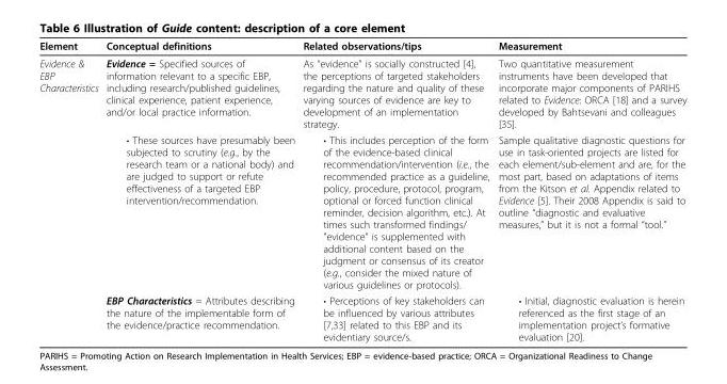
<table><thead><tr><td>Element</td><td>Conceptual definitions</td><td>Related observations/tips</td><td>Measurement</td></tr></thead><tbody><tr><td rowspan="3">Evidence &amp; EBP Characteristics</td><td>Evidence = Specified sources of information relevant to a specific EBP, including research/published guidelines, clinical experience, patient experience, and/or local practice information.</td><td>As “evidence” is socially constructed [4], the perceptions of targeted stakeholders regarding the nature and quality of these varying sources of evidence are key to development of an implementation strategy.</td><td>Two quantitative measurement instruments have been developed that incorporate major components of PARIHS related to Evidence: ORCA [18] and a survey developed by Bahtsevani and colleagues [35].</td></tr><tr><td>• These sources have presumably been subjected to scrutiny (e.g., by the research team or a national body) and are judged to support or refute effectiveness of a targeted EBP intervention/recommendation.</td><td>• This includes perception of the form of the evidence-based clinical recommendation/intervention (i.e., the recommended practice as a guideline, policy, procedure, protocol, program, optional or forced function clinical reminder, decision algorithm, etc.). At times such transformed findings/ &quot;evidence” is supplemented with additional content based on the judgment or consensus of its creator (e.g., consider the mixed nature of various guidelines or protocols).</td><td>Sample qualitative diagnostic questions for use in task-oriented projects are listed for each element/sub-element and are, for the most part, based on adaptations of items from the Kitson et al. Appendix related to Evidence [5]. Their 2008 Appendix is said to outline “diagnostic and evaluative measures,” but it is not a formal “tool.”</td></tr><tr><td>EBP Characteristics = Attributes describing the nature of the implementable form of the evidence/practice recommendation.</td><td>• Perceptions of key stakeholders can be influenced by various attributes [7,33] related to this EBP and its evidentiary source/s.</td><td>• Initial, diagnostic evaluation is herein referenced as the first stage of an implementation project’s formative evaluation [20].</td></tr></tbody></table>